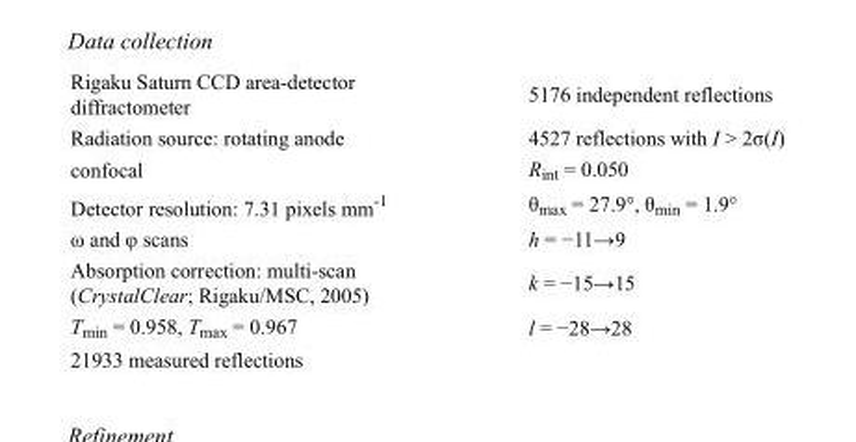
<table><tbody><tr><td>Rigaku Saturn CCD area-detector diffractometer</td><td>5176 independent reflections</td></tr><tr><td>Radiation source: rotating anode</td><td>4527 reflections with I &gt; 2σ(I)</td></tr><tr><td>confocal</td><td>R<sub>int</sub> = 0.050</td></tr><tr><td>Detector resolution: 7.31 pixels mm<sup>-1</sup></td><td>θ<sub>max</sub> = 27.9°, θ<sub>min</sub> = 1.9°</td></tr><tr><td>ω and φ scans</td><td>h = −11→9</td></tr><tr><td>Absorption correction: multi-scan (CrystalClear; Rigaku/MSC, 2005)</td><td>k = −15→15</td></tr><tr><td>T<sub>min</sub> = 0.958, T<sub>max</sub> = 0.967</td><td>l = −28→28</td></tr><tr><td>21933 measured reflections</td><td></td></tr></tbody></table>